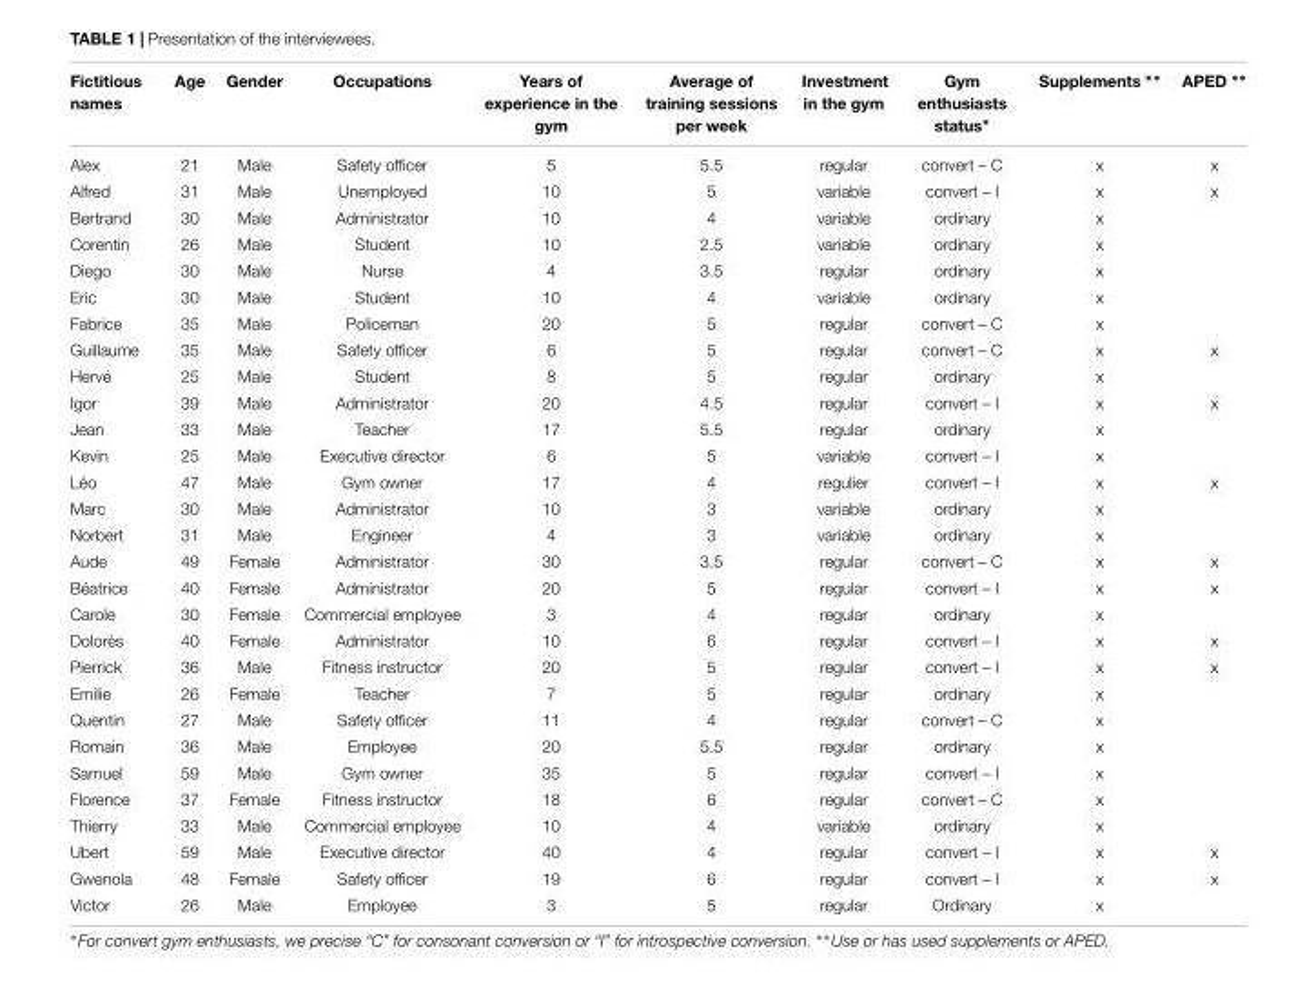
<table><thead><tr><td>Fictitious names</td><td>Age</td><td>Gender</td><td>Occupations</td><td>Years of experience in the gym</td><td>Average of training sessions per week</td><td>Investment in the gym</td><td>Gym enthusiasts status∗</td><td>Supplements ∗∗</td><td>APED ∗∗</td></tr></thead><tbody><tr><td>Alex</td><td>21</td><td>Male</td><td>Safety officer</td><td>5</td><td>5.5</td><td>regular</td><td>convert – C</td><td>x</td><td>x</td></tr><tr><td>Alfred</td><td>31</td><td>Male</td><td>Unemployed</td><td>10</td><td>5</td><td>variable</td><td>convert – I</td><td>x</td><td>x</td></tr><tr><td>Bertrand</td><td>30</td><td>Male</td><td>Administrator</td><td>10</td><td>4</td><td>variable</td><td>ordinary</td><td>x</td><td></td></tr><tr><td>Corentin</td><td>26</td><td>Male</td><td>Student</td><td>10</td><td>2.5</td><td>variable</td><td>ordinary</td><td>x</td><td></td></tr><tr><td>Diego</td><td>30</td><td>Male</td><td>Nurse</td><td>4</td><td>3.5</td><td>regular</td><td>ordinary</td><td>x</td><td></td></tr><tr><td>Eric</td><td>30</td><td>Male</td><td>Student</td><td>10</td><td>4</td><td>variable</td><td>ordinary</td><td>x</td><td></td></tr><tr><td>Fabrice</td><td>35</td><td>Male</td><td>Policeman</td><td>20</td><td>5</td><td>regular</td><td>convert – C</td><td>x</td><td></td></tr><tr><td>Guillaume</td><td>35</td><td>Male</td><td>Safety officer</td><td>6</td><td>5</td><td>regular</td><td>convert – C</td><td>x</td><td>x</td></tr><tr><td>Hervé</td><td>25</td><td>Male</td><td>Student</td><td>8</td><td>5</td><td>regular</td><td>ordinary</td><td>x</td><td></td></tr><tr><td>Igor</td><td>39</td><td>Male</td><td>Administrator</td><td>20</td><td>4.5</td><td>regular</td><td>convert – I</td><td>x</td><td>x</td></tr><tr><td>Jean</td><td>33</td><td>Male</td><td>Teacher</td><td>17</td><td>5.5</td><td>regular</td><td>ordinary</td><td>x</td><td></td></tr><tr><td>Kevin</td><td>25</td><td>Male</td><td>Executive director</td><td>6</td><td>5</td><td>variable</td><td>convert – I</td><td>x</td><td></td></tr><tr><td>Léo</td><td>47</td><td>Male</td><td>Gym owner</td><td>17</td><td>4</td><td>regulier</td><td>convert – I</td><td>x</td><td>x</td></tr><tr><td>Marc</td><td>30</td><td>Male</td><td>Administrator</td><td>10</td><td>3</td><td>variable</td><td>ordinary</td><td>x</td><td></td></tr><tr><td>Norbert</td><td>31</td><td>Male</td><td>Engineer</td><td>4</td><td>3</td><td>variable</td><td>ordinary</td><td>x</td><td></td></tr><tr><td>Aude</td><td>49</td><td>Female</td><td>Administrator</td><td>30</td><td>3.5</td><td>regular</td><td>convert – C</td><td>x</td><td>x</td></tr><tr><td>Béatrice</td><td>40</td><td>Female</td><td>Administrator</td><td>20</td><td>5</td><td>regular</td><td>convert – I</td><td>x</td><td>x</td></tr><tr><td>Carole</td><td>30</td><td>Female</td><td>Commercial employee</td><td>3</td><td>4</td><td>regular</td><td>ordinary</td><td>x</td><td></td></tr><tr><td>Dolorès</td><td>40</td><td>Female</td><td>Administrator</td><td>10</td><td>6</td><td>regular</td><td>convert – I</td><td>x</td><td>x</td></tr><tr><td>Pierrick</td><td>36</td><td>Male</td><td>Fitness instructor</td><td>20</td><td>5</td><td>regular</td><td>convert – I</td><td>x</td><td>x</td></tr><tr><td>Emilie</td><td>26</td><td>Female</td><td>Teacher</td><td>7</td><td>5</td><td>regular</td><td>ordinary</td><td>x</td><td></td></tr><tr><td>Quentin</td><td>27</td><td>Male</td><td>Safety officer</td><td>11</td><td>4</td><td>regular</td><td>convert – C</td><td>x</td><td></td></tr><tr><td>Romain</td><td>36</td><td>Male</td><td>Employee</td><td>20</td><td>5.5</td><td>regular</td><td>ordinary</td><td>x</td><td></td></tr><tr><td>Samuel</td><td>59</td><td>Male</td><td>Gym owner</td><td>35</td><td>5</td><td>regular</td><td>convert – I</td><td>x</td><td></td></tr><tr><td>Florence</td><td>37</td><td>Female</td><td>Fitness instructor</td><td>18</td><td>6</td><td>regular</td><td>convert – C</td><td>x</td><td></td></tr><tr><td>Thierry</td><td>33</td><td>Male</td><td>Commercial employee</td><td>10</td><td>4</td><td>variable</td><td>ordinary</td><td>x</td><td></td></tr><tr><td>Ubert</td><td>59</td><td>Male</td><td>Executive director</td><td>40</td><td>4</td><td>regular</td><td>convert – I</td><td>x</td><td>x</td></tr><tr><td>Gwenola</td><td>48</td><td>Female</td><td>Safety officer</td><td>19</td><td>6</td><td>regular</td><td>convert – I</td><td>x</td><td>x</td></tr><tr><td>Victor</td><td>26</td><td>Male</td><td>Employee</td><td>3</td><td>5</td><td>regular</td><td>Ordinary</td><td>x</td><td></td></tr></tbody></table>